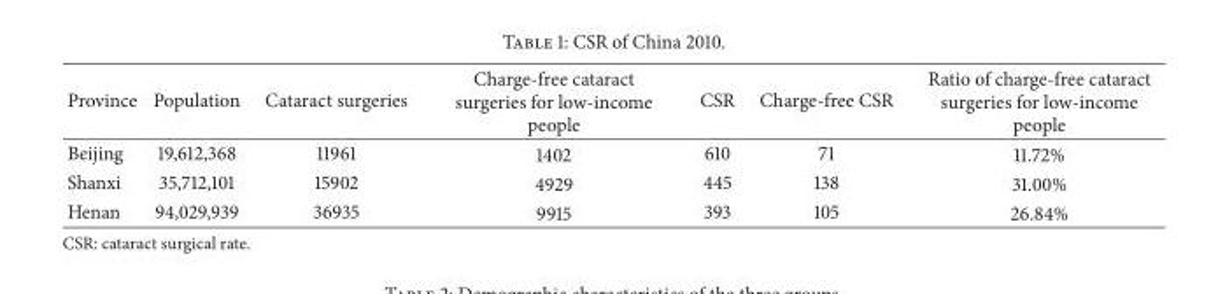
<table><thead><tr><td>Province</td><td>Population</td><td>Cataract surgeries</td><td>Charge-free cataract surgeries for low-income people</td><td>CSR</td><td>Charge-free CSR</td><td>Ratio of charge-free cataract surgeries for low-income people</td></tr></thead><tbody><tr><td>Beijing</td><td>19,612,368</td><td>11961</td><td>1402</td><td>610</td><td>71</td><td>11.72%</td></tr><tr><td>Shanxi</td><td>35,712,101</td><td>15902</td><td>4929</td><td>445</td><td>138</td><td>31.00%</td></tr><tr><td>Henan</td><td>94,029,939</td><td>36935</td><td>9915</td><td>393</td><td>105</td><td>26.84%</td></tr></tbody></table>